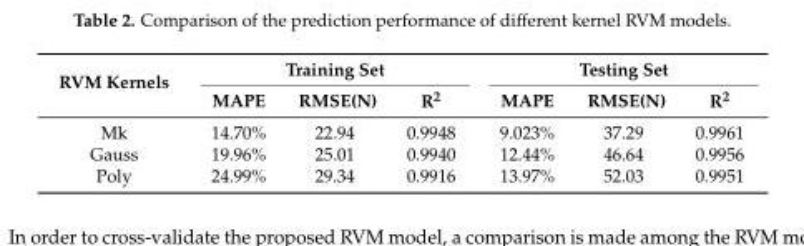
<table><thead><tr><td rowspan="2">RVM Kernels</td><td colspan="3">Training Set</td><td colspan="3">Testing Set</td></tr><tr><td>MAPE</td><td>RMSE(N)</td><td>R<sup>2</sup></td><td>MAPE</td><td>RMSE(N)</td><td>R<sup>2</sup></td></tr></thead><tbody><tr><td>Mk</td><td>14.70%</td><td>22.94</td><td>0.9948</td><td>9.023%</td><td>37.29</td><td>0.9961</td></tr><tr><td>Gauss</td><td>19.96%</td><td>25.01</td><td>0.9940</td><td>12.44%</td><td>46.64</td><td>0.9956</td></tr><tr><td>Poly</td><td>24.99%</td><td>29.34</td><td>0.9916</td><td>13.97%</td><td>52.03</td><td>0.9951</td></tr></tbody></table>